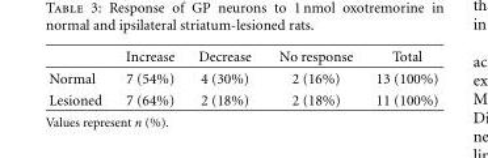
<table><thead><tr><td></td><td>Increase</td><td>Decrease</td><td>No response</td><td>Total</td></tr></thead><tbody><tr><td>Normal</td><td>7 (54%)</td><td>4 (30%)</td><td>2 (16%)</td><td>13 (100%)</td></tr><tr><td>Lesioned</td><td>7 (64%)</td><td>2 (18%)</td><td>2 (18%)</td><td>11 (100%)</td></tr></tbody></table>